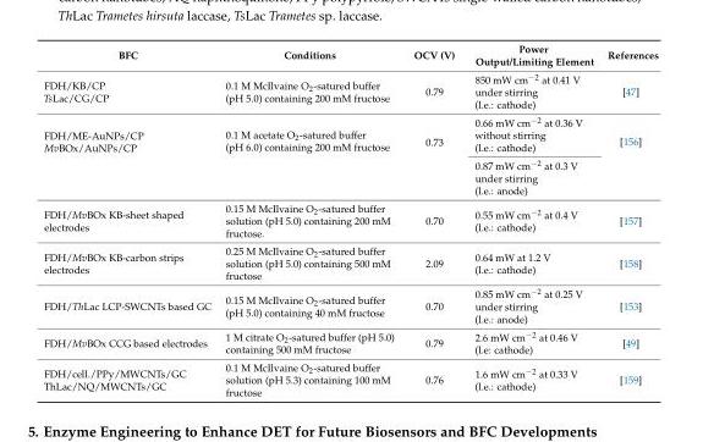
<table><thead><tr><td>BFC</td><td>Conditions</td><td>OCV (V)</td><td>Power Output/Limiting Element</td><td>References</td></tr></thead><tbody><tr><td>FDH/KB/CP TsLac/CG/CP</td><td>0.1 M McIlvaine O<sub>2</sub>-satured buffer (pH 5.0) containing 200 mM fructose</td><td>0.79</td><td>850 mW cm<sup>−2</sup> at 0.41 V under stirring (l.e.: cathode)</td><td>[47]</td></tr><tr><td rowspan="2">FDH/ME-AuNPs/CP MvBOx/AuNPs/CP</td><td rowspan="2">0.1 M acetate O<sub>2</sub>-satured buffer (pH 6.0) containing 200 mM fructose</td><td rowspan="2">0.73</td><td>0.66 mW cm<sup>−2</sup> at 0.36 V without stirring (l.e.: cathode)</td><td rowspan="2">[156]</td></tr><tr><td>0.87 mW cm<sup>−2</sup> at 0.3 V under stirring (l.e.: anode)</td></tr><tr><td>FDH/MvBOx KB-sheet shaped electrodes</td><td>0.15 M McIlvaine O<sub>2</sub>-satured buffer solution (pH 5.0) containing 200 mM fructose.</td><td>0.70</td><td>0.55 mW cm<sup>−2</sup> at 0.4 V (l.e.: cathode)</td><td>[157]</td></tr><tr><td>FDH/MvBOx KB-carbon strips electrodes</td><td>0.25 M McIlvaine O<sub>2</sub>-satured buffer solution (pH 5.0) containing 500 mM fructose</td><td>2.09</td><td>0.64 mW at 1.2 V (l.e.: cathode)</td><td>[158]</td></tr><tr><td>FDH/ThLac LCP-SWCNTs based GC</td><td>0.15 M McIlvaine O<sub>2</sub>-satured buffer (pH 5.0) containing 40 mM fructose</td><td>0.70</td><td>0.85 mW cm<sup>−2</sup> at 0.25 V under stirring (l.e.: anode)</td><td>[153]</td></tr><tr><td>FDH/MvBOx CCG based electrodes</td><td>1 M citrate O<sub>2</sub>-satured buffer (pH 5.0) containing 500 mM fructose</td><td>0.79</td><td>2.6 mW cm<sup>−2</sup> at 0.46 V (l.e: cathode)</td><td>[49]</td></tr><tr><td>FDH/cell./PPy/MWCNTs/GC ThLac/NQ/MWCNTs/GC</td><td>0.1 M McIlvaine O<sub>2</sub>-satured buffer solution (pH 5.3) containing 100 mM fructose</td><td>0.76</td><td>1.6 mW cm<sup>−2</sup> at 0.33 V (l.e.: cathode)</td><td>[159]</td></tr></tbody></table>